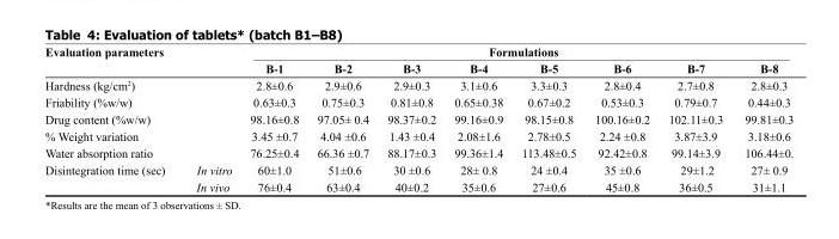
<table><thead><tr><td rowspan="2">Evaluation parameters</td><td rowspan="2"></td><td colspan="8">Formulations</td></tr><tr><td>B-1</td><td>B-2</td><td>B-3</td><td>B-4</td><td>B-5</td><td>B-6</td><td>B-7</td><td>B-8</td></tr></thead><tbody><tr><td>Hardness (kg/cm<sup>2</sup>)</td><td></td><td>2.8±0.6</td><td>2.9±0.6</td><td>2.9±0.3</td><td>3.1±0.6</td><td>3.3±0.3</td><td>2.8±0.4</td><td>2.7±0.8</td><td>2.8±0.3</td></tr><tr><td>Friability (%w/w)</td><td></td><td>0.63±0.3</td><td>0.75±0.3</td><td>0.81±0.8</td><td>0.65±0.38</td><td>0.67±0.2</td><td>0.53±0.3</td><td>0.79±0.7</td><td>0.44±0.3</td></tr><tr><td>Drug content (%w/w)</td><td></td><td>98.16±0.8</td><td>97.05± 0.4</td><td>98.37±0.2</td><td>99.16±0.9</td><td>98.15±0.8</td><td>100.16±0.2</td><td>102.11±0.3</td><td>99.81±0.3</td></tr><tr><td>% Weight variation</td><td></td><td>3.45 ±0.7</td><td>4.04 ±0.6</td><td>1.43 ±0.4</td><td>2.08±1.6</td><td>2.78±0.5</td><td>2.24 ±0.8</td><td>3.87±3.9</td><td>3.18±0.6</td></tr><tr><td>Water absorption ratio</td><td></td><td>76.25±0.4</td><td>66.36 ±0.7</td><td>88.17±0.3</td><td>99.36±1.4</td><td>113.48±0.5</td><td>92.42±0.8</td><td>99.14±3.9</td><td>106.44±0.</td></tr><tr><td rowspan="2">Disintegration time (sec)</td><td>In vitro</td><td>60±1.0</td><td>51±0.6</td><td>30 ±0.6</td><td>28± 0.8</td><td>24 ±0.4</td><td>35 ±0.6</td><td>29±1.2</td><td>27± 0.9</td></tr><tr><td>In vivo</td><td>76±0.4</td><td>63±0.4</td><td>40±0.2</td><td>35±0.6</td><td>27±0.6</td><td>45±0.8</td><td>36±0.5</td><td>31±1.1</td></tr></tbody></table>